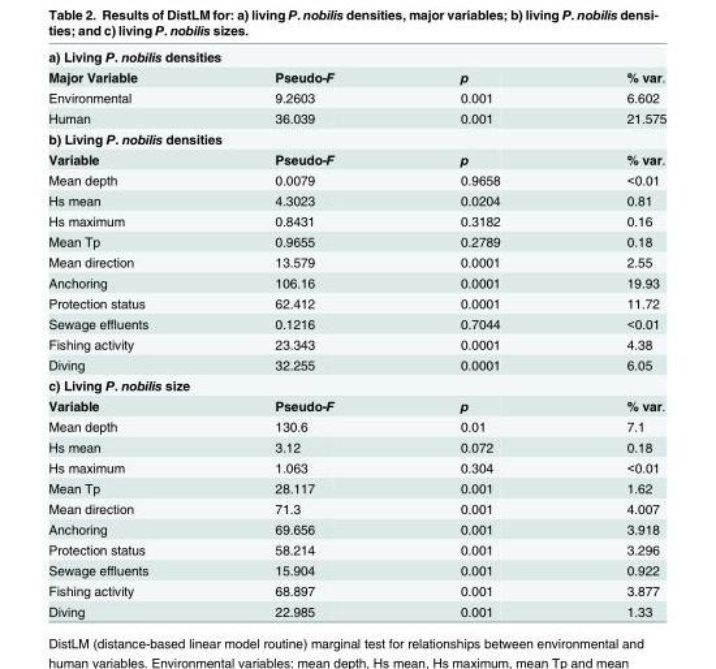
<table><tbody><tr><td colspan="4">a) Living P. nobilis densities</td></tr><tr><td>Major Variable</td><td>Pseudo-F</td><td>p</td><td>% var.</td></tr><tr><td>Environmental</td><td>9.2603</td><td>0.001</td><td>6.602</td></tr><tr><td>Human</td><td>36.039</td><td>0.001</td><td>21.575</td></tr><tr><td colspan="4">b) Living P. nobilis densities</td></tr><tr><td>Variable</td><td>Pseudo-F</td><td>p</td><td>% var.</td></tr><tr><td>Mean depth</td><td>0.0079</td><td>0.9658</td><td>&lt;0.01</td></tr><tr><td>Hs mean</td><td>4.3023</td><td>0.0204</td><td>0.81</td></tr><tr><td>Hs maximum</td><td>0.8431</td><td>0.3182</td><td>0.16</td></tr><tr><td>Mean Tp</td><td>0.9655</td><td>0.2789</td><td>0.18</td></tr><tr><td>Mean direction</td><td>13.579</td><td>0.0001</td><td>2.55</td></tr><tr><td>Anchoring</td><td>106.16</td><td>0.0001</td><td>19.93</td></tr><tr><td>Protection status</td><td>62.412</td><td>0.0001</td><td>11.72</td></tr><tr><td>Sewage effluents</td><td>0.1216</td><td>0.7044</td><td>&lt;0.01</td></tr><tr><td>Fishing activity</td><td>23.343</td><td>0.0001</td><td>4.38</td></tr><tr><td>Diving</td><td>32.255</td><td>0.0001</td><td>6.05</td></tr><tr><td colspan="4">c) Living P. nobilis size</td></tr><tr><td>Variable</td><td>Pseudo-F</td><td>p</td><td>% var.</td></tr><tr><td>Mean depth</td><td>130.6</td><td>0.01</td><td>7.1</td></tr><tr><td>Hs mean</td><td>3.12</td><td>0.072</td><td>0.18</td></tr><tr><td>Hs maximum</td><td>1.063</td><td>0.304</td><td>&lt;0.01</td></tr><tr><td>Mean Tp</td><td>28.117</td><td>0.001</td><td>1.62</td></tr><tr><td>Mean direction</td><td>71.3</td><td>0.001</td><td>4.007</td></tr><tr><td>Anchoring</td><td>69.656</td><td>0.001</td><td>3.918</td></tr><tr><td>Protection status</td><td>58.214</td><td>0.001</td><td>3.296</td></tr><tr><td>Sewage effluents</td><td>15.904</td><td>0.001</td><td>0.922</td></tr><tr><td>Fishing activity</td><td>68.897</td><td>0.001</td><td>3.877</td></tr><tr><td>Diving</td><td>22.985</td><td>0.001</td><td>1.33</td></tr></tbody></table>